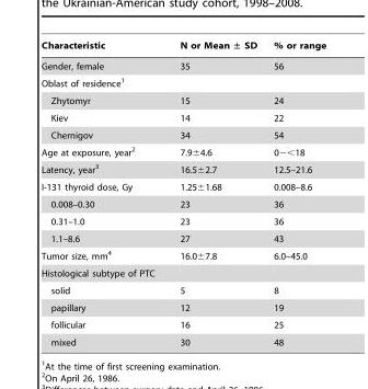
<table><thead><tr><td>Characteristic</td><td>N or Mean ± SD</td><td>% or range</td></tr></thead><tbody><tr><td>Gender, female</td><td>35</td><td>56</td></tr><tr><td colspan="3">Oblast of residence<sup>1</sup></td></tr><tr><td>Zhytomyr</td><td>15</td><td>24</td></tr><tr><td>Kiev</td><td>14</td><td>22</td></tr><tr><td>Chernigov</td><td>34</td><td>54</td></tr><tr><td>Age at exposure, year<sup>2</sup></td><td>7.9±4.6</td><td>0−&lt;18</td></tr><tr><td>Latency, year<sup>3</sup></td><td>16.5±2.7</td><td>12.5–21.6</td></tr><tr><td>I-131 thyroid dose, Gy</td><td>1.25±1.68</td><td>0.008–8.6</td></tr><tr><td>0.008–0.30</td><td>23</td><td>36</td></tr><tr><td>0.31–1.0</td><td>23</td><td>36</td></tr><tr><td>1.1–8.6</td><td>27</td><td>43</td></tr><tr><td>Tumor size, mm<sup>4</sup></td><td>16.0±7.8</td><td>6.0–45.0</td></tr><tr><td colspan="3">Histological subtype of PTC</td></tr><tr><td>solid</td><td>5</td><td>8</td></tr><tr><td>papillary</td><td>12</td><td>19</td></tr><tr><td>follicular</td><td>16</td><td>25</td></tr><tr><td>mixed</td><td>30</td><td>48</td></tr></tbody></table>